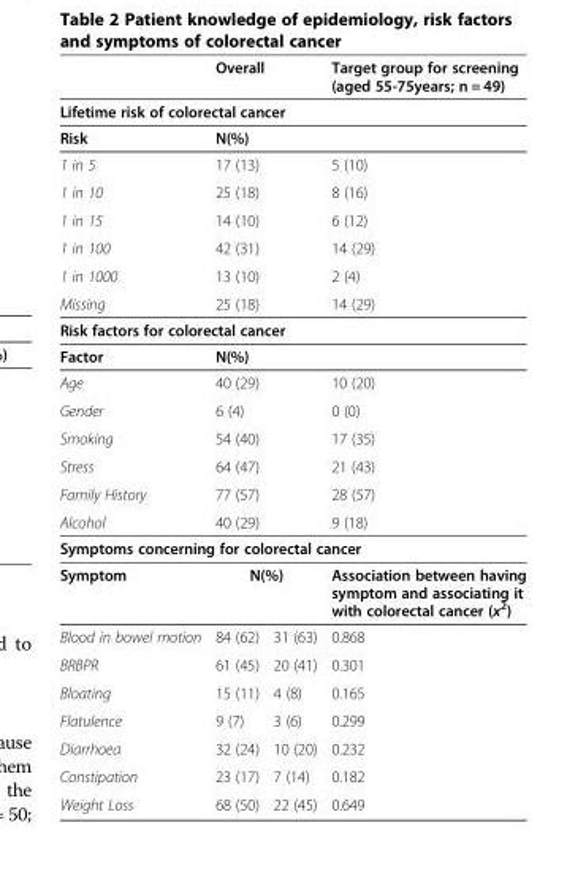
<table><thead><tr><td></td><td colspan="2">Overall</td><td>Target group for screening (aged 55-75years; n = 49)</td></tr></thead><tbody><tr><td colspan="4">Lifetime risk of colorectal cancer</td></tr><tr><td>Risk</td><td colspan="3">N(%)</td></tr><tr><td>1 in 5</td><td colspan="2">17 (13)</td><td>5 (10)</td></tr><tr><td>1 in 10</td><td colspan="2">25 (18)</td><td>8 (16)</td></tr><tr><td>1 in 15</td><td colspan="2">14 (10)</td><td>6 (12)</td></tr><tr><td>1 in 100</td><td colspan="2">42 (31)</td><td>14 (29)</td></tr><tr><td>1 in 1000</td><td colspan="2">13 (10)</td><td>2 (4)</td></tr><tr><td>Missing</td><td colspan="2">25 (18)</td><td>14 (29)</td></tr><tr><td colspan="4">Risk factors for colorectal cancer</td></tr><tr><td>Factor</td><td colspan="3">N(%)</td></tr><tr><td>Age</td><td colspan="2">40 (29)</td><td>10 (20)</td></tr><tr><td>Gender</td><td colspan="2">6 (4)</td><td>0 (0)</td></tr><tr><td>Smoking</td><td colspan="2">54 (40)</td><td>17 (35)</td></tr><tr><td>Stress</td><td colspan="2">64 (47)</td><td>21 (43)</td></tr><tr><td>Family History</td><td colspan="2">77 (57)</td><td>28 (57)</td></tr><tr><td>Alcohol</td><td colspan="2">40 (29)</td><td>9 (18)</td></tr><tr><td colspan="4">Symptoms concerning for colorectal cancer</td></tr><tr><td>Symptom</td><td colspan="2">N(%)</td><td>Association between having symptom and associating it with colorectal cancer (x<sup>2</sup>)</td></tr><tr><td>Blood in bowel motion</td><td>84 (62)</td><td>31 (63)</td><td>0.868</td></tr><tr><td>BRBPR</td><td>61 (45)</td><td>20 (41)</td><td>0.301</td></tr><tr><td>Bloating</td><td>15 (11)</td><td>4 (8)</td><td>0.165</td></tr><tr><td>Flatulence</td><td>9 (7)</td><td>3 (6)</td><td>0.299</td></tr><tr><td>Diarrhoea</td><td>32 (24)</td><td>10 (20)</td><td>0.232</td></tr><tr><td>Constipation</td><td>23 (17)</td><td>7 (14)</td><td>0.182</td></tr><tr><td>Weight Loss</td><td>68 (50)</td><td>22 (45)</td><td>0.649</td></tr></tbody></table>